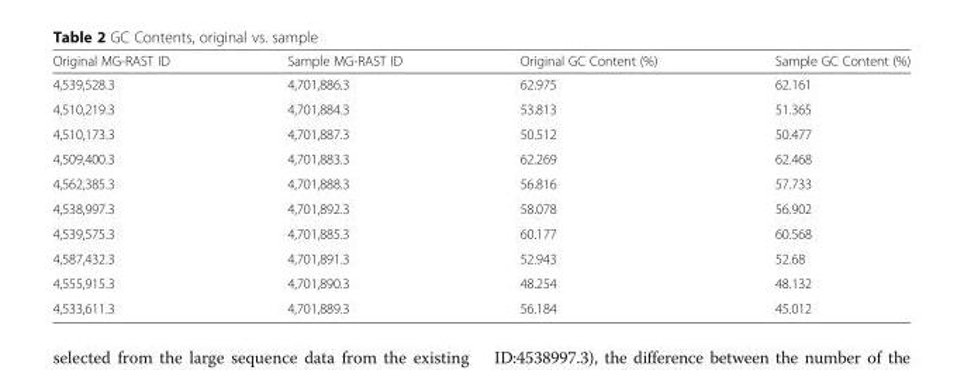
<table><thead><tr><td>Original MG-RAST ID</td><td>Sample MG-RAST ID</td><td>Original GC Content (%)</td><td>Sample GC Content (%)</td></tr></thead><tbody><tr><td>4,539,528.3</td><td>4,701,886.3</td><td>62.975</td><td>62.161</td></tr><tr><td>4,510,219.3</td><td>4,701,884.3</td><td>53.813</td><td>51.365</td></tr><tr><td>4,510,173.3</td><td>4,701,887.3</td><td>50.512</td><td>50.477</td></tr><tr><td>4,509,400.3</td><td>4,701,883.3</td><td>62.269</td><td>62.468</td></tr><tr><td>4,562,385.3</td><td>4,701,888.3</td><td>56.816</td><td>57.733</td></tr><tr><td>4,538,997.3</td><td>4,701,892.3</td><td>58.078</td><td>56.902</td></tr><tr><td>4,539,575.3</td><td>4,701,885.3</td><td>60.177</td><td>60.568</td></tr><tr><td>4,587,432.3</td><td>4,701,891.3</td><td>52.943</td><td>52.68</td></tr><tr><td>4,555,915.3</td><td>4,701,890.3</td><td>48.254</td><td>48.132</td></tr><tr><td>4,533,611.3</td><td>4,701,889.3</td><td>56.184</td><td>45.012</td></tr></tbody></table>